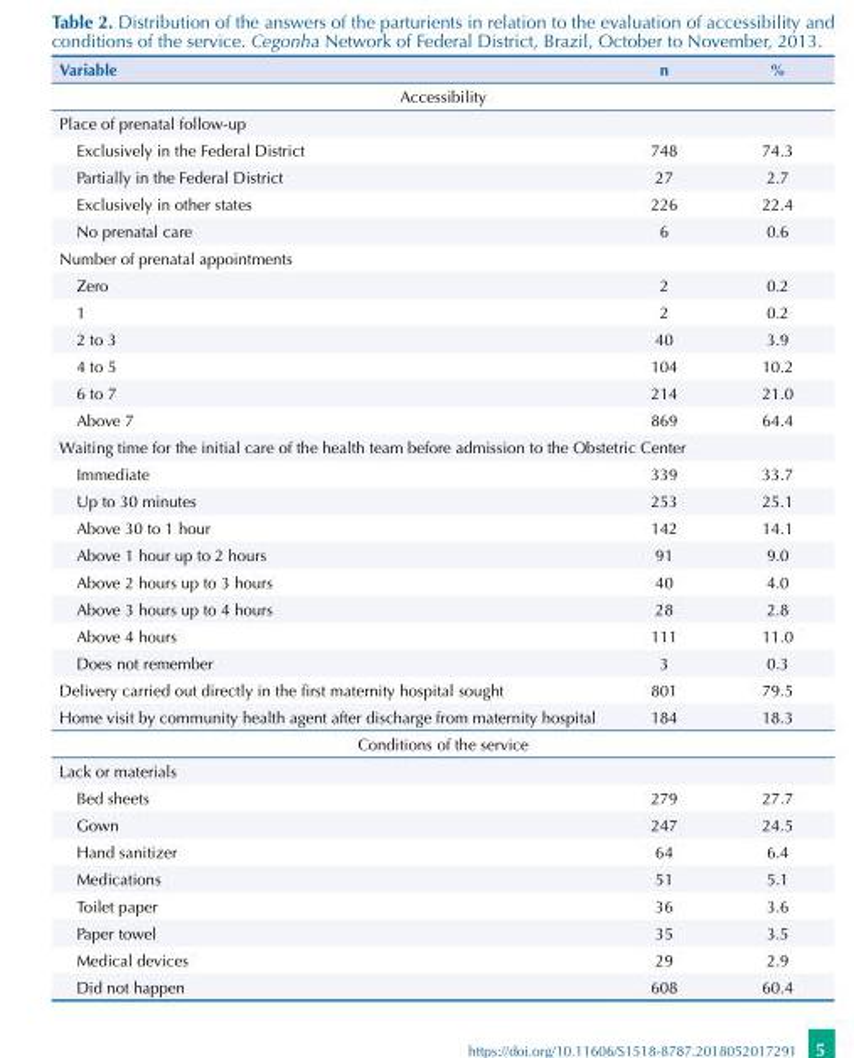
<table><thead><tr><td>Variable</td><td>n</td><td>%</td></tr></thead><tbody><tr><td colspan="3">Accessibility</td></tr><tr><td colspan="3">Place of prenatal follow-up</td></tr><tr><td>Exclusively in the Federal District</td><td>748</td><td>74.3</td></tr><tr><td>Partially in the Federal District</td><td>27</td><td>2.7</td></tr><tr><td>Exclusively in other states</td><td>226</td><td>22.4</td></tr><tr><td>No prenatal care</td><td>6</td><td>0.6</td></tr><tr><td colspan="3">Number of prenatal appointments</td></tr><tr><td>Zero</td><td>2</td><td>0.2</td></tr><tr><td>1</td><td>2</td><td>0.2</td></tr><tr><td>2 to 3</td><td>40</td><td>3.9</td></tr><tr><td>4 to 5</td><td>104</td><td>10.2</td></tr><tr><td>6 to 7</td><td>214</td><td>21.0</td></tr><tr><td>Above 7</td><td>869</td><td>64.4</td></tr><tr><td colspan="3">Waiting time for the initial care of the health team before admission to the Obstetric Center</td></tr><tr><td>Immediate</td><td>339</td><td>33.7</td></tr><tr><td>Up to 30 minutes</td><td>253</td><td>25.1</td></tr><tr><td>Above 30 to 1 hour</td><td>142</td><td>14.1</td></tr><tr><td>Above 1 hour up to 2 hours</td><td>91</td><td>9.0</td></tr><tr><td>Above 2 hours up to 3 hours</td><td>40</td><td>4.0</td></tr><tr><td>Above 3 hours up to 4 hours</td><td>28</td><td>2.8</td></tr><tr><td>Above 4 hours</td><td>111</td><td>11.0</td></tr><tr><td>Does not remember</td><td>3</td><td>0.3</td></tr><tr><td>Delivery carried out directly in the first maternity hospital sought</td><td>801</td><td>79.5</td></tr><tr><td>Home visit by community health agent after discharge from maternity hospital</td><td>184</td><td>18.3</td></tr><tr><td colspan="3">Conditions of the service</td></tr><tr><td colspan="3">Lack or materials</td></tr><tr><td>Bed sheets</td><td>279</td><td>27.7</td></tr><tr><td>Gown</td><td>247</td><td>24.5</td></tr><tr><td>Hand sanitizer</td><td>64</td><td>6.4</td></tr><tr><td>Medications</td><td>51</td><td>5.1</td></tr><tr><td>Toilet paper</td><td>36</td><td>3.6</td></tr><tr><td>Paper towel</td><td>35</td><td>3.5</td></tr><tr><td>Medical devices</td><td>29</td><td>2.9</td></tr><tr><td>Did not happen</td><td>608</td><td>60.4</td></tr></tbody></table>